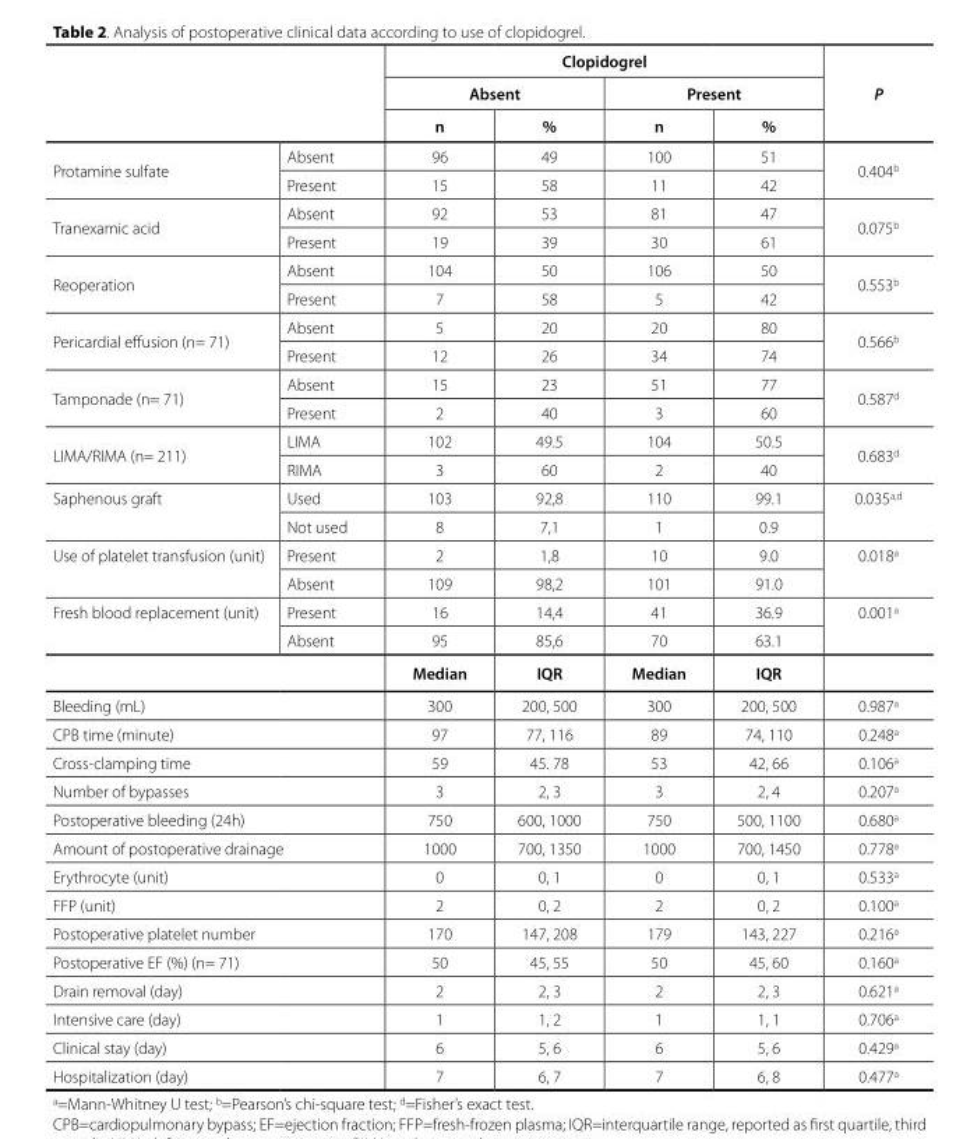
<table><thead><tr><td rowspan="3"></td><td rowspan="3"></td><td colspan="4">Clopidogrel</td><td rowspan="3">P</td></tr><tr><td colspan="2">Absent</td><td colspan="2">Present</td></tr><tr><td>n</td><td>%</td><td>n</td><td>%</td></tr></thead><tbody><tr><td rowspan="2">Protamine sulfate</td><td>Absent</td><td>96</td><td>49</td><td>100</td><td>51</td><td rowspan="2">0.404<sup>b</sup></td></tr><tr><td>Present</td><td>15</td><td>58</td><td>11</td><td>42</td></tr><tr><td rowspan="2">Tranexamic acid</td><td>Absent</td><td>92</td><td>53</td><td>81</td><td>47</td><td rowspan="2">0.075<sup>b</sup></td></tr><tr><td>Present</td><td>19</td><td>39</td><td>30</td><td>61</td></tr><tr><td rowspan="2">Reoperation</td><td>Absent</td><td>104</td><td>50</td><td>106</td><td>50</td><td rowspan="2">0.553<sup>b</sup></td></tr><tr><td>Present</td><td>7</td><td>58</td><td>5</td><td>42</td></tr><tr><td rowspan="2">Pericardial effusion (n= 71)</td><td>Absent</td><td>5</td><td>20</td><td>20</td><td>80</td><td rowspan="2">0.566<sup>b</sup></td></tr><tr><td>Present</td><td>12</td><td>26</td><td>34</td><td>74</td></tr><tr><td rowspan="2">Tamponade (n= 71)</td><td>Absent</td><td>15</td><td>23</td><td>51</td><td>77</td><td rowspan="2">0.587<sup>d</sup></td></tr><tr><td>Present</td><td>2</td><td>40</td><td>3</td><td>60</td></tr><tr><td rowspan="2">LIMA/RIMA (n= 211)</td><td>LIMA</td><td>102</td><td>49.5</td><td>104</td><td>50.5</td><td rowspan="2">0.683<sup>d</sup></td></tr><tr><td>RIMA</td><td>3</td><td>60</td><td>2</td><td>40</td></tr><tr><td rowspan="2">Saphenous graft</td><td>Used</td><td>103</td><td>92,8</td><td>110</td><td>99.1</td><td>0.035<sup>a,d</sup></td></tr><tr><td>Not used</td><td>8</td><td>7,1</td><td>1</td><td>0.9</td><td></td></tr><tr><td rowspan="2">Use of platelet transfusion (unit)</td><td>Present</td><td>2</td><td>1,8</td><td>10</td><td>9.0</td><td>0.018<sup>a</sup></td></tr><tr><td>Absent</td><td>109</td><td>98,2</td><td>101</td><td>91.0</td><td></td></tr><tr><td rowspan="2">Fresh blood replacement (unit)</td><td>Present</td><td>16</td><td>14,4</td><td>41</td><td>36.9</td><td>0.001<sup>a</sup></td></tr><tr><td>Absent</td><td>95</td><td>85,6</td><td>70</td><td>63.1</td><td></td></tr><tr><td colspan="2"></td><td>Median</td><td>IQR</td><td>Median</td><td>IQR</td><td></td></tr><tr><td colspan="2">Bleeding (mL)</td><td>300</td><td>200, 500</td><td>300</td><td>200, 500</td><td>0.987<sup>a</sup></td></tr><tr><td colspan="2">CPB time (minute)</td><td>97</td><td>77, 116</td><td>89</td><td>74, 110</td><td>0.248<sup>a</sup></td></tr><tr><td colspan="2">Cross-clamping time</td><td>59</td><td>45. 78</td><td>53</td><td>42, 66</td><td>0.106<sup>a</sup></td></tr><tr><td colspan="2">Number of bypasses</td><td>3</td><td>2, 3</td><td>3</td><td>2, 4</td><td>0.207<sup>a</sup></td></tr><tr><td colspan="2">Postoperative bleeding (24h)</td><td>750</td><td>600, 1000</td><td>750</td><td>500, 1100</td><td>0.680<sup>a</sup></td></tr><tr><td colspan="2">Amount of postoperative drainage</td><td>1000</td><td>700, 1350</td><td>1000</td><td>700, 1450</td><td>0.778<sup>a</sup></td></tr><tr><td colspan="2">Erythrocyte (unit)</td><td>0</td><td>0, 1</td><td>0</td><td>0, 1</td><td>0.533<sup>a</sup></td></tr><tr><td colspan="2">FFP (unit)</td><td>2</td><td>0, 2</td><td>2</td><td>0, 2</td><td>0.100<sup>a</sup></td></tr><tr><td colspan="2">Postoperative platelet number</td><td>170</td><td>147, 208</td><td>179</td><td>143, 227</td><td>0.216<sup>a</sup></td></tr><tr><td colspan="2">Postoperative EF (%) (n= 71)</td><td>50</td><td>45, 55</td><td>50</td><td>45, 60</td><td>0.160<sup>a</sup></td></tr><tr><td colspan="2">Drain removal (day)</td><td>2</td><td>2, 3</td><td>2</td><td>2, 3</td><td>0.621<sup>a</sup></td></tr><tr><td colspan="2">Intensive care (day)</td><td>1</td><td>1, 2</td><td>1</td><td>1, 1</td><td>0.706<sup>a</sup></td></tr><tr><td colspan="2">Clinical stay (day)</td><td>6</td><td>5, 6</td><td>6</td><td>5, 6</td><td>0.429<sup>a</sup></td></tr><tr><td colspan="2">Hospitalization (day)</td><td>7</td><td>6, 7</td><td>7</td><td>6, 8</td><td>0.477<sup>a</sup></td></tr></tbody></table>